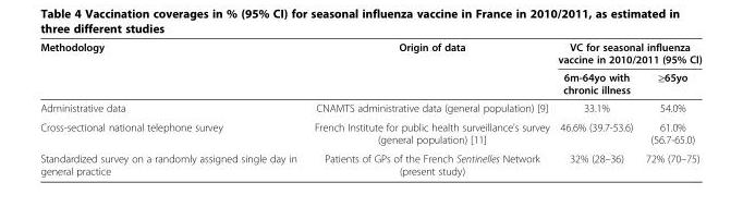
<table><thead><tr><td rowspan="2">Methodology</td><td rowspan="2">Origin of data</td><td colspan="2">VC for seasonal influenza vaccine in 2010/2011 (95% CI)</td></tr><tr><td>6m-64yo with chronic illness</td><td>≥65yo</td></tr></thead><tbody><tr><td>Administrative data</td><td>CNAMTS administrative data (general population) [9]</td><td>33.1%</td><td>54.0%</td></tr><tr><td>Cross-sectional national telephone survey</td><td>French Institute for public health surveillance&#x27;s survey (general population) [11]</td><td>46.6% (39.7-53.6)</td><td>61.0% (56.7-65.0)</td></tr><tr><td>Standardized survey on a randomly assigned single day in general practice</td><td>Patients of GPs of the French Sentinelles Network (present study)</td><td>32% (28–36)</td><td>72% (70–75)</td></tr></tbody></table>